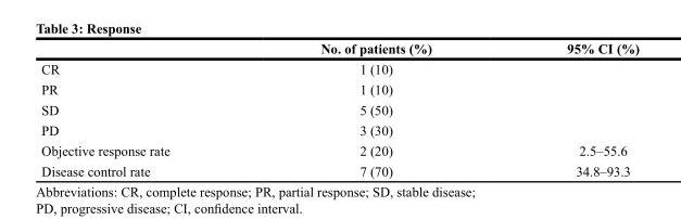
<table><thead><tr><td></td><td>No. of patients (%)</td><td>95% CI (%)</td></tr></thead><tbody><tr><td>CR</td><td>1 (10)</td><td></td></tr><tr><td>PR</td><td>1 (10)</td><td></td></tr><tr><td>SD</td><td>5 (50)</td><td></td></tr><tr><td>PD</td><td>3 (30)</td><td></td></tr><tr><td>Objective response rate</td><td>2 (20)</td><td>2.5–55.6</td></tr><tr><td>Disease control rate</td><td>7 (70)</td><td>34.8–93.3</td></tr></tbody></table>